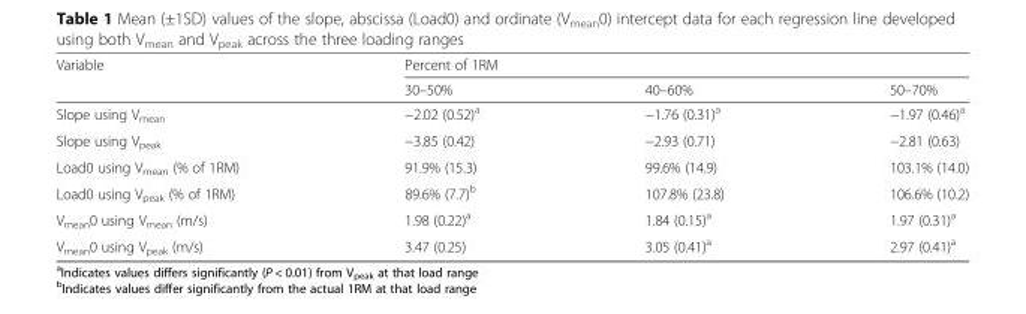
<table><thead><tr><td rowspan="2">Variable</td><td colspan="3">Percent of 1RM</td></tr><tr><td>30–50%</td><td>40–60%</td><td>50–70%</td></tr></thead><tbody><tr><td>Slope using V<sub>mean</sub></td><td>−2.02 (0.52)<sup>a</sup></td><td>−1.76 (0.31)<sup>a</sup></td><td>−1.97 (0.46)<sup>a</sup></td></tr><tr><td>Slope using V<sub>peak</sub></td><td>−3.85 (0.42)</td><td>−2.93 (0.71)</td><td>−2.81 (0.63)</td></tr><tr><td>Load0 using V<sub>mean</sub> (% of 1RM)</td><td>91.9% (15.3)</td><td>99.6% (14.9)</td><td>103.1% (14.0)</td></tr><tr><td>Load0 using V<sub>peak</sub> (% of 1RM)</td><td>89.6% (7.7)<sup>b</sup></td><td>107.8% (23.8)</td><td>106.6% (10.2)</td></tr><tr><td>V<sub>mean</sub>0 using V<sub>mean</sub> (m/s)</td><td>1.98 (0.22)<sup>a</sup></td><td>1.84 (0.15)<sup>a</sup></td><td>1.97 (0.31)<sup>a</sup></td></tr><tr><td>V<sub>mean</sub>0 using V<sub>peak</sub> (m/s)</td><td>3.47 (0.25)</td><td>3.05 (0.41)<sup>a</sup></td><td>2.97 (0.41)<sup>a</sup></td></tr></tbody></table>